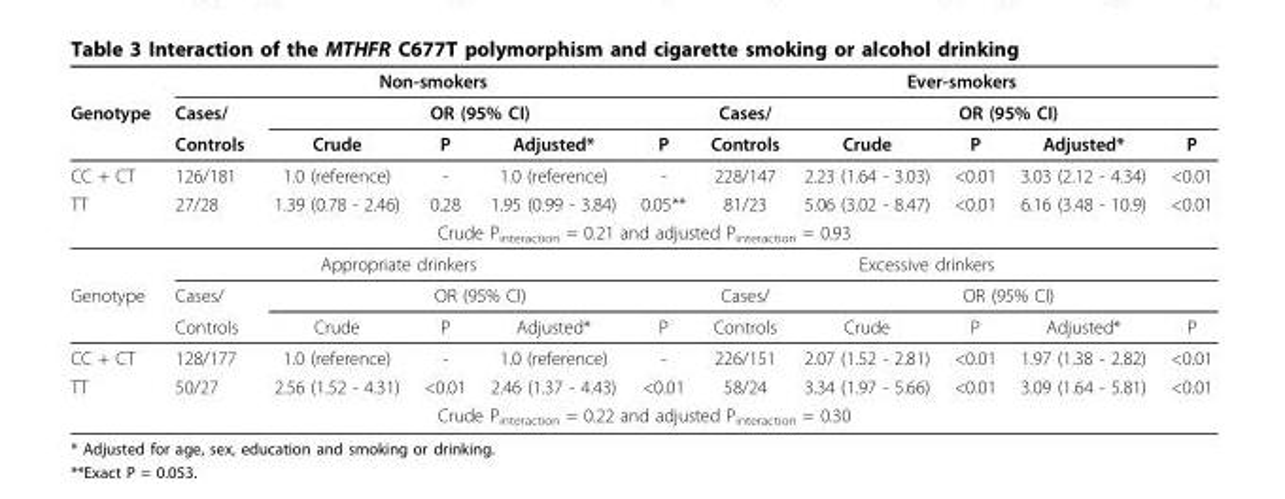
<table><thead><tr><td rowspan="3">Genotype</td><td colspan="5">Non-smokers</td><td colspan="5">Ever-smokers</td></tr><tr><td rowspan="2">Cases/ Controls</td><td colspan="4">OR (95% CI)</td><td rowspan="2">Cases/ Controls</td><td colspan="4">OR (95% CI)</td></tr><tr><td>Crude</td><td>P</td><td>Adjusted*</td><td>P</td><td>Crude</td><td>P</td><td>Adjusted*</td><td>P</td></tr></thead><tbody><tr><td>CC + CT</td><td>126/181</td><td>1.0 (reference)</td><td>-</td><td>1.0 (reference)</td><td>-</td><td>228/147</td><td>2.23 (1.64 - 3.03)</td><td>&lt;0.01</td><td>3.03 (2.12 - 4.34)</td><td>&lt;0.01</td></tr><tr><td>TT</td><td>27/28</td><td>1.39 (0.78 - 2.46)</td><td>0.28</td><td>1.95 (0.99 - 3.84)</td><td>0.05**</td><td>81/23</td><td>5.06 (3.02 - 8.47)</td><td>&lt;0.01</td><td>6.16 (3.48 - 10.9)</td><td>&lt;0.01</td></tr><tr><td colspan="11">Crude Pinteraction = 0.21 and adjusted Pinteraction = 0.93</td></tr><tr><td></td><td colspan="4">Appropriate drinkers</td><td colspan="6">Excessive drinkers</td></tr><tr><td rowspan="2">Genotype</td><td>Cases/</td><td colspan="4">OR (95% CI)</td><td>Cases/</td><td colspan="4">OR (95% CI)</td></tr><tr><td>Controls</td><td>Crude</td><td>P</td><td>Adjusted*</td><td>P</td><td>Controls</td><td>Crude</td><td>P</td><td>Adjusted*</td><td>P</td></tr><tr><td>CC + CT</td><td>128/177</td><td>1.0 (reference)</td><td>-</td><td>1.0 (reference)</td><td>-</td><td>226/151</td><td>2.07 (1.52 - 2.81)</td><td>&lt;0.01</td><td>1.97 (1.38 - 2.82)</td><td>&lt;0.01</td></tr><tr><td>TT</td><td>50/27</td><td>2.56 (1.52 - 4.31)</td><td>&lt;0.01</td><td>2.46 (1.37 - 4.43)</td><td>&lt;0.01</td><td>58/24</td><td>3.34 (1.97 - 5.66)</td><td>&lt;0.01</td><td>3.09 (1.64 - 5.81)</td><td>&lt;0.01</td></tr><tr><td colspan="11">Crude Pinteraction = 0.22 and adjusted Pinteraction = 0.30</td></tr></tbody></table>